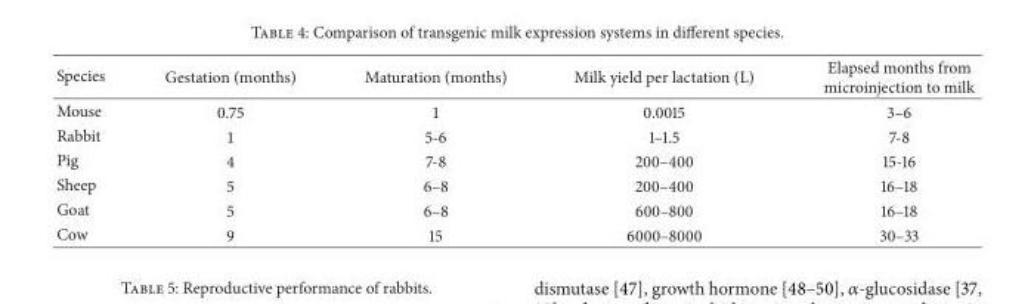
<table><thead><tr><td>Species</td><td>Gestation (months)</td><td>Maturation (months)</td><td>Milk yield per lactation (L)</td><td>Elapsed months from microinjection to milk</td></tr></thead><tbody><tr><td>Mouse</td><td>0.75</td><td>1</td><td>0.0015</td><td>3–6</td></tr><tr><td>Rabbit</td><td>1</td><td>5-6</td><td>1–1.5</td><td>7-8</td></tr><tr><td>Pig</td><td>4</td><td>7-8</td><td>200–400</td><td>15-16</td></tr><tr><td>Sheep</td><td>5</td><td>6–8</td><td>200–400</td><td>16–18</td></tr><tr><td>Goat</td><td>5</td><td>6–8</td><td>600–800</td><td>16–18</td></tr><tr><td>Cow</td><td>9</td><td>15</td><td>6000–8000</td><td>30–33</td></tr></tbody></table>